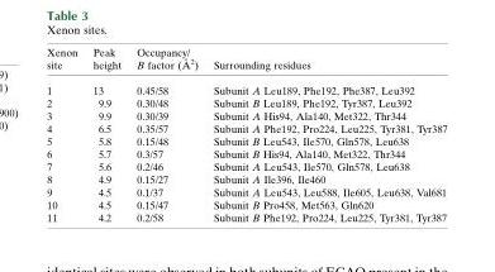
<table><thead><tr><td>Xenon site</td><td>Peak height</td><td>Occupancy/ B factor (A˚ 2)</td><td>Surrounding residues</td></tr></thead><tbody><tr><td>1</td><td>13</td><td>0.45/58</td><td>Subunit A Leu189, Phe192, Phe387, Leu392</td></tr><tr><td>2</td><td>9.9</td><td>0.30/48</td><td>Subunit B Leu189, Phe192, Tyr387, Leu392</td></tr><tr><td>3</td><td>9.9</td><td>0.30/39</td><td>Subunit A His94, Ala140, Met322, Thr344</td></tr><tr><td>4</td><td>6.5</td><td>0.35/57</td><td>Subunit A Phe192, Pro224, Leu225, Tyr381, Tyr387</td></tr><tr><td>5</td><td>5.8</td><td>0.15/48</td><td>Subunit B Leu543, Ile570, Gln578, Leu638</td></tr><tr><td>6</td><td>5.7</td><td>0.3/57</td><td>Subunit B His94, Ala140, Met322, Thr344</td></tr><tr><td>7</td><td>5.6</td><td>0.2/46</td><td>Subunit A Leu543, Ile570, Gln578, Leu638</td></tr><tr><td>8</td><td>4.9</td><td>0.15/27</td><td>Subunit A Ile396, Ile460</td></tr><tr><td>9</td><td>4.5</td><td>0.1/37</td><td>Subunit A Leu543, Leu588, Ile605, Leu638, Val681</td></tr><tr><td>10</td><td>4.5</td><td>0.15/47</td><td>Subunit B Pro458, Met563, Gln620</td></tr><tr><td>11</td><td>4.2</td><td>0.2/58</td><td>Subunit B Phe192, Pro224, Leu225, Tyr381, Tyr387</td></tr></tbody></table>